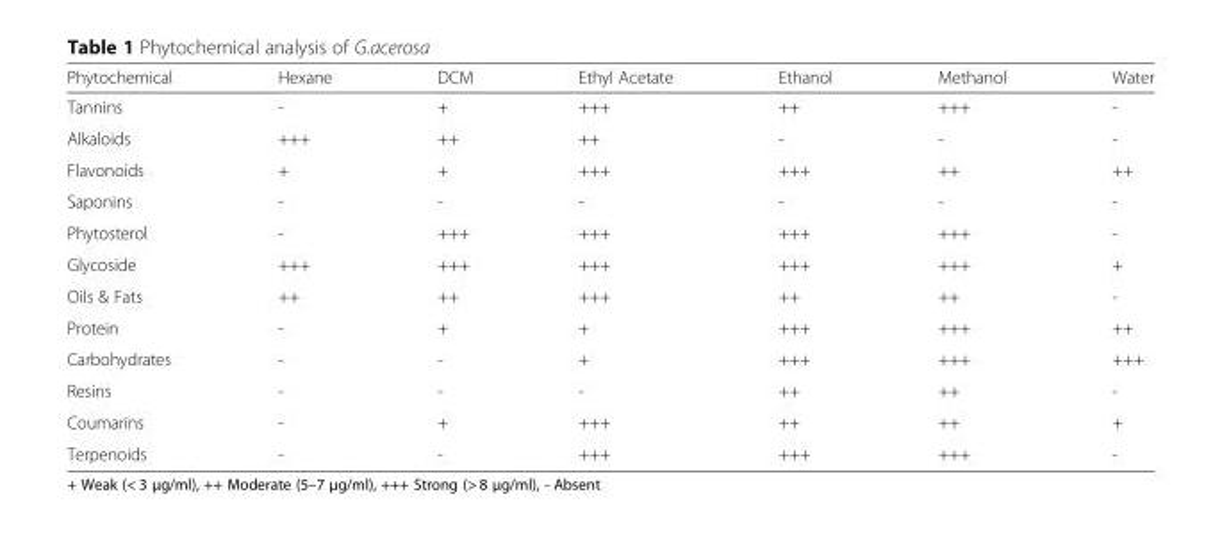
<table><thead><tr><td>Phytochemical</td><td>Hexane</td><td>DCM</td><td>Ethyl Acetate</td><td>Ethanol</td><td>Methanol</td><td>Water</td></tr></thead><tbody><tr><td>Tannins</td><td>-</td><td>+</td><td>+++</td><td>++</td><td>+++</td><td>-</td></tr><tr><td>Alkaloids</td><td>+++</td><td>++</td><td>++</td><td>-</td><td>-</td><td>-</td></tr><tr><td>Flavonoids</td><td>+</td><td>+</td><td>+++</td><td>+++</td><td>++</td><td>++</td></tr><tr><td>Saponins</td><td>-</td><td>-</td><td>-</td><td>-</td><td>-</td><td>-</td></tr><tr><td>Phytosterol</td><td>-</td><td>+++</td><td>+++</td><td>+++</td><td>+++</td><td>-</td></tr><tr><td>Glycoside</td><td>+++</td><td>+++</td><td>+++</td><td>+++</td><td>+++</td><td>+</td></tr><tr><td>Oils &amp; Fats</td><td>++</td><td>++</td><td>+++</td><td>++</td><td>++</td><td>-</td></tr><tr><td>Protein</td><td>-</td><td>+</td><td>+</td><td>+++</td><td>+++</td><td>++</td></tr><tr><td>Carbohydrates</td><td>-</td><td>-</td><td>+</td><td>+++</td><td>+++</td><td>+++</td></tr><tr><td>Resins</td><td>-</td><td>-</td><td>-</td><td>++</td><td>++</td><td>-</td></tr><tr><td>Coumarins</td><td>-</td><td>+</td><td>+++</td><td>++</td><td>++</td><td>+</td></tr><tr><td>Terpenoids</td><td>-</td><td>-</td><td>+++</td><td>+++</td><td>+++</td><td>-</td></tr></tbody></table>